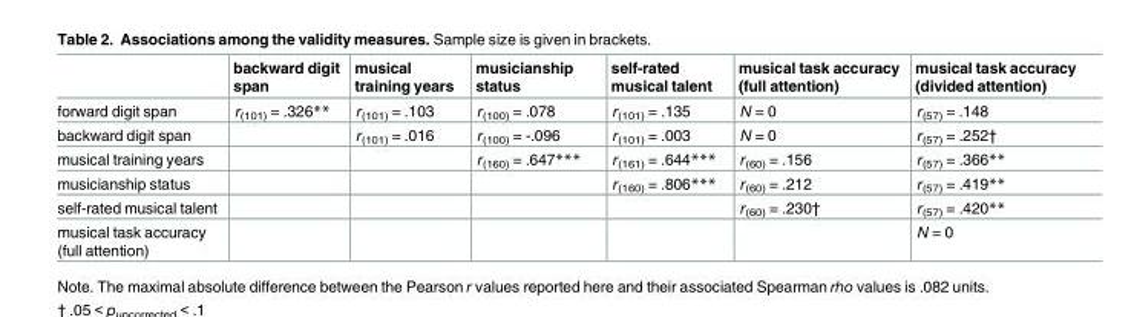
<table><thead><tr><td></td><td>backward digit span</td><td>musical training years</td><td>musicianship status</td><td>self-rated musical talent</td><td>musical task accuracy (full attention)</td><td>musical task accuracy (divided attention)</td></tr></thead><tbody><tr><td>forward digit span</td><td>r<sub>(101)</sub> = .326**</td><td>r<sub>(101)</sub> = .103</td><td>r<sub>(100)</sub> = .078</td><td>r<sub>(101)</sub> = .135</td><td>N = 0</td><td>r<sub>(57)</sub> = .148</td></tr><tr><td>backward digit span</td><td></td><td>r<sub>(101)</sub> = .016</td><td>r<sub>(100)</sub> = -.096</td><td>r<sub>(101)</sub> = .003</td><td>N = 0</td><td>r<sub>(57)</sub> = .252†</td></tr><tr><td>musical training years</td><td></td><td></td><td>r<sub>(160)</sub> = .647***</td><td>r<sub>(161)</sub> = .644***</td><td>r<sub>(60)</sub> = .156</td><td>r<sub>(57)</sub> = .366**</td></tr><tr><td>musicianship status</td><td></td><td></td><td></td><td>r<sub>(160)</sub> = .806***</td><td>r<sub>(60)</sub> = .212</td><td>r<sub>(57)</sub> = .419**</td></tr><tr><td>self-rated musical talent</td><td></td><td></td><td></td><td></td><td>r<sub>(60)</sub> = .230†</td><td>r<sub>(57)</sub> = .420**</td></tr><tr><td>musical task accuracy (full attention)</td><td></td><td></td><td></td><td></td><td></td><td>N = 0</td></tr></tbody></table>